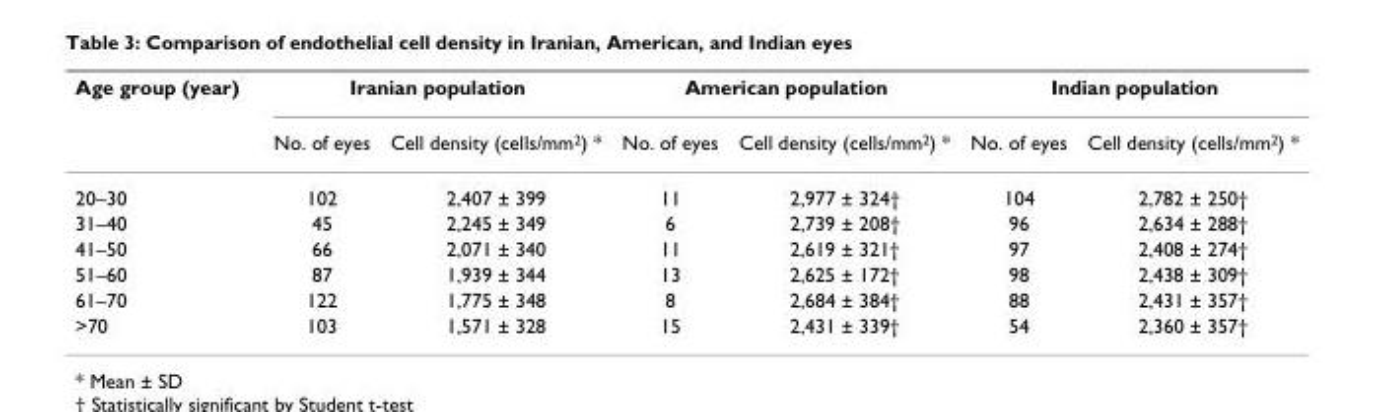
<table><thead><tr><td rowspan="2">Age group (year)</td><td colspan="2">Iranian population</td><td colspan="2">American population</td><td colspan="2">Indian population</td></tr><tr><td>No. of eyes</td><td>Cell density (cells/mm<sup>2</sup>) *</td><td>No. of eyes</td><td>Cell density (cells/mm<sup>2</sup>) *</td><td>No. of eyes</td><td>Cell density (cells/mm<sup>2</sup>) *</td></tr></thead><tbody><tr><td>20–30</td><td>102</td><td>2,407 ± 399</td><td>11</td><td>2,977 ± 324†</td><td>104</td><td>2,782 ± 250†</td></tr><tr><td>31–40</td><td>45</td><td>2,245 ± 349</td><td>6</td><td>2,739 ± 208†</td><td>96</td><td>2,634 ± 288†</td></tr><tr><td>41–50</td><td>66</td><td>2,071 ± 340</td><td>11</td><td>2,619 ± 321†</td><td>97</td><td>2,408 ± 274†</td></tr><tr><td>51–60</td><td>87</td><td>1,939 ± 344</td><td>13</td><td>2,625 ± 172†</td><td>98</td><td>2,438 ± 309†</td></tr><tr><td>61–70</td><td>122</td><td>1,775 ± 348</td><td>8</td><td>2,684 ± 384†</td><td>88</td><td>2,431 ± 357†</td></tr><tr><td>&gt;70</td><td>103</td><td>1,571 ± 328</td><td>15</td><td>2,431 ± 339†</td><td>54</td><td>2,360 ± 357†</td></tr></tbody></table>